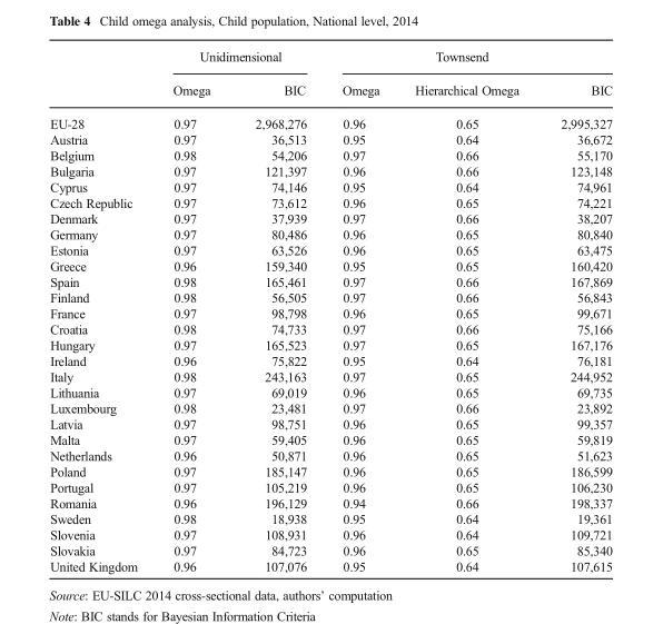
<table><thead><tr><td rowspan="2"></td><td colspan="2">Unidimensional</td><td colspan="3">Townsend</td></tr><tr><td>Omega</td><td>BIC</td><td>Omega</td><td>Hierarchical Omega</td><td>BIC</td></tr></thead><tbody><tr><td>EU-28</td><td>0.97</td><td>2,968,276</td><td>0.96</td><td>0.65</td><td>2,995,327</td></tr><tr><td>Austria</td><td>0.97</td><td>36,513</td><td>0.95</td><td>0.64</td><td>36,672</td></tr><tr><td>Belgium</td><td>0.98</td><td>54,206</td><td>0.97</td><td>0.66</td><td>55,170</td></tr><tr><td>Bulgaria</td><td>0.97</td><td>121,397</td><td>0.96</td><td>0.66</td><td>123,148</td></tr><tr><td>Cyprus</td><td>0.97</td><td>74,146</td><td>0.95</td><td>0.64</td><td>74,961</td></tr><tr><td>Czech Republic</td><td>0.97</td><td>73,612</td><td>0.96</td><td>0.65</td><td>74,221</td></tr><tr><td>Denmark</td><td>0.97</td><td>37,939</td><td>0.97</td><td>0.66</td><td>38,207</td></tr><tr><td>Germany</td><td>0.97</td><td>80,486</td><td>0.96</td><td>0.65</td><td>80,840</td></tr><tr><td>Estonia</td><td>0.97</td><td>63,526</td><td>0.96</td><td>0.65</td><td>63,475</td></tr><tr><td>Greece</td><td>0.96</td><td>159,340</td><td>0.95</td><td>0.65</td><td>160,420</td></tr><tr><td>Spain</td><td>0.98</td><td>165,461</td><td>0.97</td><td>0.66</td><td>167,869</td></tr><tr><td>Finland</td><td>0.98</td><td>56,505</td><td>0.97</td><td>0.66</td><td>56,843</td></tr><tr><td>France</td><td>0.97</td><td>98,798</td><td>0.96</td><td>0.65</td><td>99,671</td></tr><tr><td>Croatia</td><td>0.98</td><td>74,733</td><td>0.97</td><td>0.66</td><td>75,166</td></tr><tr><td>Hungary</td><td>0.97</td><td>165,523</td><td>0.97</td><td>0.65</td><td>167,176</td></tr><tr><td>Ireland</td><td>0.96</td><td>75,822</td><td>0.95</td><td>0.64</td><td>76,181</td></tr><tr><td>Italy</td><td>0.98</td><td>243,163</td><td>0.97</td><td>0.65</td><td>244,952</td></tr><tr><td>Lithuania</td><td>0.97</td><td>69,019</td><td>0.96</td><td>0.65</td><td>69,735</td></tr><tr><td>Luxembourg</td><td>0.98</td><td>23,481</td><td>0.97</td><td>0.66</td><td>23,892</td></tr><tr><td>Latvia</td><td>0.97</td><td>98,751</td><td>0.96</td><td>0.65</td><td>99,357</td></tr><tr><td>Malta</td><td>0.97</td><td>59,405</td><td>0.96</td><td>0.65</td><td>59,819</td></tr><tr><td>Netherlands</td><td>0.96</td><td>50,871</td><td>0.96</td><td>0.65</td><td>51,623</td></tr><tr><td>Poland</td><td>0.97</td><td>185,147</td><td>0.96</td><td>0.65</td><td>186,599</td></tr><tr><td>Portugal</td><td>0.97</td><td>105,219</td><td>0.96</td><td>0.65</td><td>106,230</td></tr><tr><td>Romania</td><td>0.96</td><td>196,129</td><td>0.94</td><td>0.66</td><td>198,337</td></tr><tr><td>Sweden</td><td>0.98</td><td>18,938</td><td>0.95</td><td>0.64</td><td>19,361</td></tr><tr><td>Slovenia</td><td>0.97</td><td>108,931</td><td>0.96</td><td>0.64</td><td>109,721</td></tr><tr><td>Slovakia</td><td>0.97</td><td>84,723</td><td>0.96</td><td>0.65</td><td>85,340</td></tr><tr><td>United Kingdom</td><td>0.96</td><td>107,076</td><td>0.95</td><td>0.64</td><td>107,615</td></tr></tbody></table>